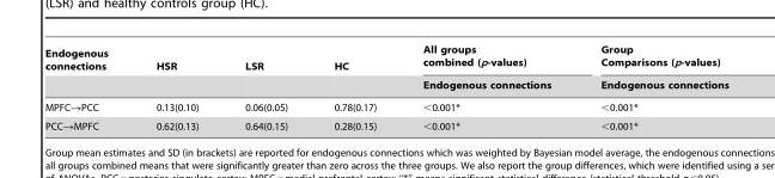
<table><thead><tr><td rowspan="2">Endogenous connections</td><td rowspan="2">HSR</td><td rowspan="2">LSR</td><td rowspan="2">HC</td><td rowspan="2">All groups combined (p-values) Endogenous connections</td><td rowspan="2">Group Comparisons (p-values) Endogenous connections</td></tr><tr></tr></thead><tbody><tr><td>MPFC→PCC</td><td>0.13(0.10)</td><td>0.06(0.05)</td><td>0.78(0.17)</td><td>&lt;0.001*</td><td>&lt;0.001*</td></tr><tr><td>PCC→MPFC</td><td>0.62(0.13)</td><td>0.64(0.15)</td><td>0.28(0.15)</td><td>&lt;0.001*</td><td>&lt;0.001*</td></tr></tbody></table>